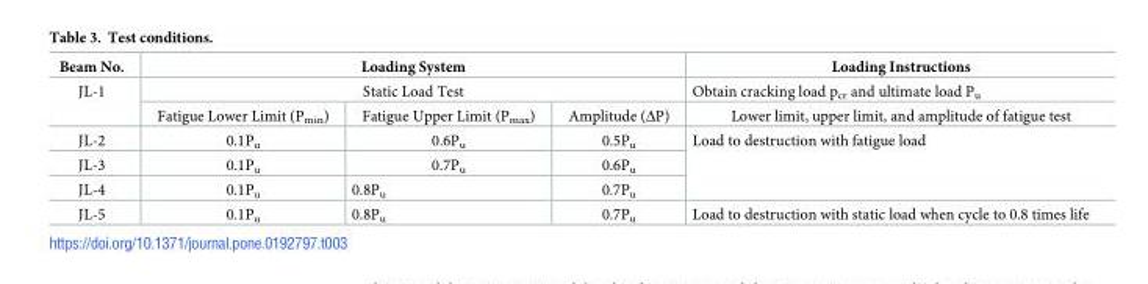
<table><thead><tr><td rowspan="3">Beam No. JL-1</td><td rowspan="2" colspan="3">Loading System Static Load Test</td><td rowspan="3">Loading Instructions Obtain cracking load p<sub>cr</sub> and ultimate load P<sub>u</sub> Lower limit, upper limit, and amplitude of fatigue test</td></tr><tr></tr><tr><td>Fatigue Lower Limit (P<sub>min</sub>)</td><td>Fatigue Upper Limit (P<sub>max</sub>)</td><td>Amplitude (ΔP)</td></tr></thead><tbody><tr><td>JL-2</td><td>0.1P<sub>u</sub></td><td>0.6P<sub>u</sub></td><td>0.5P<sub>u</sub></td><td rowspan="3">Load to destruction with fatigue load</td></tr><tr><td>JL-3</td><td>0.1P<sub>u</sub></td><td>0.7P<sub>u</sub></td><td>0.6P<sub>u</sub></td></tr><tr><td>JL-4</td><td>0.1P<sub>u</sub></td><td>0.8P<sub>u</sub></td><td>0.7P<sub>u</sub></td></tr><tr><td>JL-5</td><td>0.1P<sub>u</sub></td><td>0.8P<sub>u</sub></td><td>0.7P<sub>u</sub></td><td>Load to destruction with static load when cycle to 0.8 times life</td></tr></tbody></table>